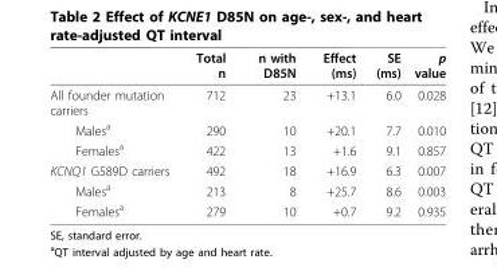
<table><thead><tr><td></td><td>Total n</td><td>n with D85N</td><td>Effect (ms)</td><td>SE (ms)</td><td>p value</td></tr></thead><tbody><tr><td>All founder mutation carriers</td><td>712</td><td>23</td><td>+13.1</td><td>6.0</td><td>0.028</td></tr><tr><td>Males<sup>a</sup></td><td>290</td><td>10</td><td>+20.1</td><td>7.7</td><td>0.010</td></tr><tr><td>Females<sup>a</sup></td><td>422</td><td>13</td><td>+1.6</td><td>9.1</td><td>0.857</td></tr><tr><td>KCNQ1 G589D carriers</td><td>492</td><td>18</td><td>+16.9</td><td>6.3</td><td>0.007</td></tr><tr><td>Males<sup>a</sup></td><td>213</td><td>8</td><td>+25.7</td><td>8.6</td><td>0.003</td></tr><tr><td>Females<sup>a</sup></td><td>279</td><td>10</td><td>+0.7</td><td>9.2</td><td>0.935</td></tr></tbody></table>